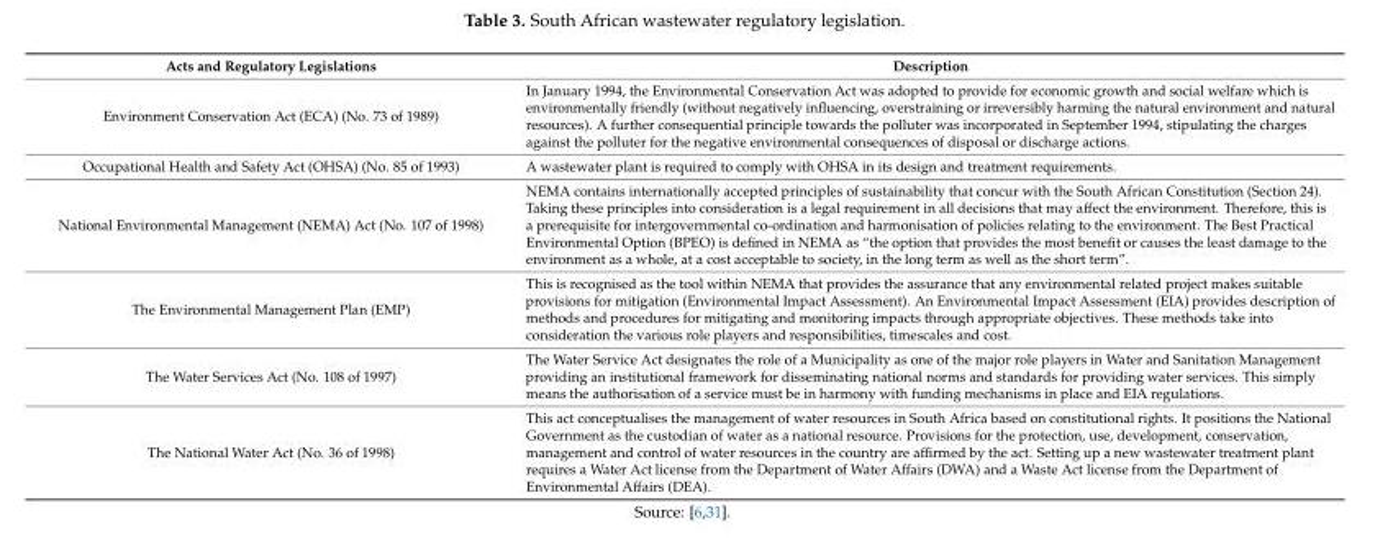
<table><thead><tr><td>Acts and Regulatory Legislations</td><td>Description</td></tr></thead><tbody><tr><td>Environment Conservation Act (ECA) (No. 73 of 1989)</td><td>In January 1994, the Environmental Conservation Act was adopted to provide for economic growth and social welfare which is environmentally friendly (without negatively influencing, overstraining or irreversibly harming the natural environment and natural resources). A further consequential principle towards the polluter was incorporated in September 1994, stipulating the charges against the polluter for the negative environmental consequences of disposal or discharge actions.</td></tr><tr><td>Occupational Health and Safety Act (OHSA) (No. 85 of 1993)</td><td>A wastewater plant is required to comply with OHSA in its design and treatment requirements.</td></tr><tr><td>National Environmental Management (NEMA) Act (No. 107 of 1998)</td><td>NEMA contains internationally accepted principles of sustainability that concur with the South African Constitution (Section 24). Taking these principles into consideration is a legal requirement in all decisions that may affect the environment. Therefore, this is a prerequisite for intergovernmental co-ordination and harmonisation of policies relating to the environment. The Best Practical Environmental Option (BPEO) is defined in NEMA as “the option that provides the most benefit or causes the least damage to the environment as a whole, at a cost acceptable to society, in the long term as well as the short term”.</td></tr><tr><td>The Environmental Management Plan (EMP)</td><td>This is recognised as the tool within NEMA that provides the assurance that any environmental related project makes suitable provisions for mitigation (Environmental Impact Assessment). An Environmental Impact Assessment (EIA) provides description of methods and procedures for mitigating and monitoring impacts through appropriate objectives. These methods take into consideration the various role players and responsibilities, timescales and cost.</td></tr><tr><td>The Water Services Act (No. 108 of 1997)</td><td>The Water Service Act designates the role of a Municipality as one of the major role players in Water and Sanitation Management providing an institutional framework for disseminating national norms and standards for providing water services. This simply means the authorisation of a service must be in harmony with funding mechanisms in place and EIA regulations.</td></tr><tr><td>The National Water Act (No. 36 of 1998)</td><td>This act conceptualises the management of water resources in South Africa based on constitutional rights. It positions the National Government as the custodian of water as a national resource. Provisions for the protection, use, development, conservation, management and control of water resources in the country are affirmed by the act. Setting up a new wastewater treatment plant requires a Water Act license from the Department of Water Affairs (DWA) and a Waste Act license from the Department of Environmental Affairs (DEA).</td></tr></tbody></table>